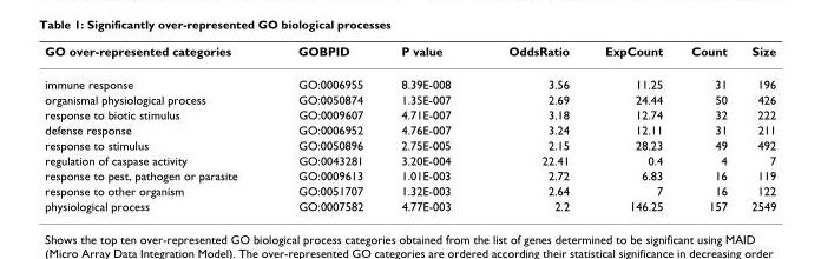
<table><thead><tr><td>GO over-represented categories</td><td>GOBPID</td><td>P value</td><td>OddsRatio</td><td>ExpCount</td><td>Count</td><td>Size</td></tr></thead><tbody><tr><td>immune response</td><td>GO:0006955</td><td>8.39E-008</td><td>3.56</td><td>11.25</td><td>31</td><td>196</td></tr><tr><td>organismal physiological process</td><td>GO:0050874</td><td>1.35E-007</td><td>2.69</td><td>24.44</td><td>50</td><td>426</td></tr><tr><td>response to biotic stimulus</td><td>GO:0009607</td><td>4.71E-007</td><td>3.18</td><td>12.74</td><td>32</td><td>222</td></tr><tr><td>defense response</td><td>GO:0006952</td><td>4.76E-007</td><td>3.24</td><td>12.11</td><td>31</td><td>211</td></tr><tr><td>response to stimulus</td><td>GO:0050896</td><td>2.75E-005</td><td>2.15</td><td>28.23</td><td>49</td><td>492</td></tr><tr><td>regulation of caspase activity</td><td>GO:0043281</td><td>3.20E-004</td><td>22.41</td><td>0.4</td><td>4</td><td>7</td></tr><tr><td>response to pest, pathogen or parasite</td><td>GO:0009613</td><td>1.01E-003</td><td>2.72</td><td>6.83</td><td>16</td><td>119</td></tr><tr><td>response to other organism</td><td>GO:0051707</td><td>1.32E-003</td><td>2.64</td><td>7</td><td>16</td><td>122</td></tr><tr><td>physiological process</td><td>GO:0007582</td><td>4.77E-003</td><td>2.2</td><td>146.25</td><td>157</td><td>2549</td></tr></tbody></table>